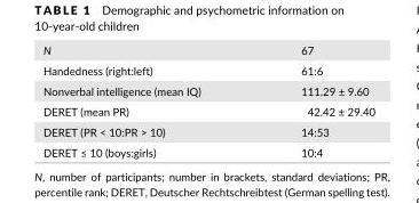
<table><tbody><tr><td>N</td><td>67</td></tr><tr><td>Handedness (right:left)</td><td>61:6</td></tr><tr><td>Nonverbal intelligence (mean IQ)</td><td>111.29 ± 9.60</td></tr><tr><td>DERET (mean PR)</td><td>42.42 ± 29.40</td></tr><tr><td>DERET (PR &lt; 10:PR &gt; 10)</td><td>14:53</td></tr><tr><td>DERET ≤ 10 (boys:girls)</td><td>10:4</td></tr></tbody></table>